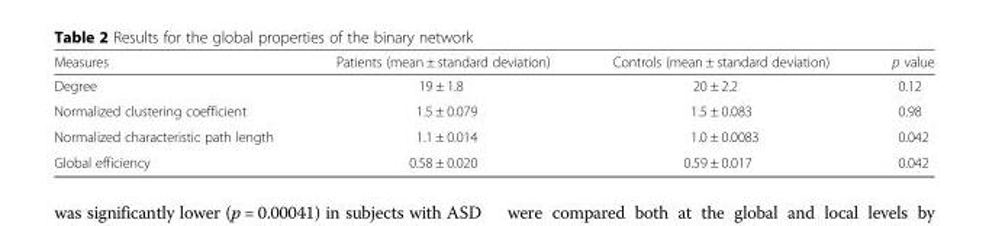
<table><thead><tr><td>Measures</td><td>Patients (mean ± standard deviation)</td><td>Controls (mean ± standard deviation)</td><td>p value</td></tr></thead><tbody><tr><td>Degree</td><td>19 ± 1.8</td><td>20 ± 2.2</td><td>0.12</td></tr><tr><td>Normalized clustering coefficient</td><td>1.5 ± 0.079</td><td>1.5 ± 0.083</td><td>0.98</td></tr><tr><td>Normalized characteristic path length</td><td>1.1 ± 0.014</td><td>1.0 ± 0.0083</td><td>0.042</td></tr><tr><td>Global efficiency</td><td>0.58 ± 0.020</td><td>0.59 ± 0.017</td><td>0.042</td></tr></tbody></table>